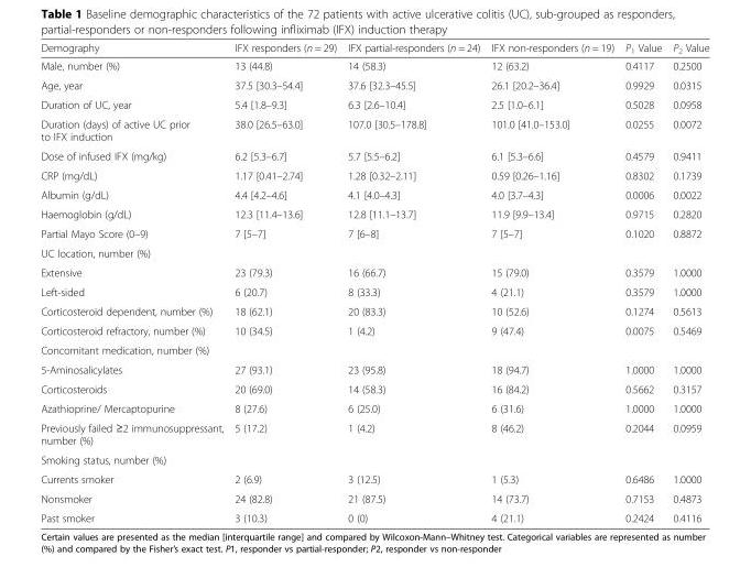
<table><thead><tr><td>Demography</td><td>IFX responders (n = 29)</td><td>IFX partial-responders (n = 24)</td><td>IFX non-responders (n = 19)</td><td>P<sub>1</sub> Value</td><td>P<sub>2</sub> Value</td></tr></thead><tbody><tr><td>Male, number (%)</td><td>13 (44.8)</td><td>14 (58.3)</td><td>12 (63.2)</td><td>0.4117</td><td>0.2500</td></tr><tr><td>Age, year</td><td>37.5 [30.3–54.4]</td><td>37.6 [32.3–45.5]</td><td>26.1 [20.2–36.4]</td><td>0.9929</td><td>0.0315</td></tr><tr><td>Duration of UC, year</td><td>5.4 [1.8–9.3]</td><td>6.3 [2.6–10.4]</td><td>2.5 [1.0–6.1]</td><td>0.5028</td><td>0.0958</td></tr><tr><td>Duration (days) of active UC prior to IFX induction</td><td>38.0 [26.5–63.0]</td><td>107.0 [30.5–178.8]</td><td>101.0 [41.0–153.0]</td><td>0.0255</td><td>0.0072</td></tr><tr><td>Dose of infused IFX (mg/kg)</td><td>6.2 [5.3–6.7]</td><td>5.7 [5.5–6.2]</td><td>6.1 [5.3–6.6]</td><td>0.4579</td><td>0.9411</td></tr><tr><td>CRP (mg/dL)</td><td>1.17 [0.41–2.74]</td><td>1.28 [0.32–2.11]</td><td>0.59 [0.26–1.16]</td><td>0.8302</td><td>0.1739</td></tr><tr><td>Albumin (g/dL)</td><td>4.4 [4.2–4.6]</td><td>4.1 [4.0–4.3]</td><td>4.0 [3.7–4.3]</td><td>0.0006</td><td>0.0022</td></tr><tr><td>Haemoglobin (g/dL)</td><td>12.3 [11.4–13.6]</td><td>12.8 [11.1–13.7]</td><td>11.9 [9.9–13.4]</td><td>0.9715</td><td>0.2820</td></tr><tr><td>Partial Mayo Score (0–9)</td><td>7 [5–7]</td><td>7 [6–8]</td><td>7 [5–7]</td><td>0.1020</td><td>0.8872</td></tr><tr><td colspan="6">UC location, number (%)</td></tr><tr><td>Extensive</td><td>23 (79.3)</td><td>16 (66.7)</td><td>15 (79.0)</td><td>0.3579</td><td>1.0000</td></tr><tr><td>Left-sided</td><td>6 (20.7)</td><td>8 (33.3)</td><td>4 (21.1)</td><td>0.3579</td><td>1.0000</td></tr><tr><td>Corticosteroid dependent, number (%)</td><td>18 (62.1)</td><td>20 (83.3)</td><td>10 (52.6)</td><td>0.1274</td><td>0.5613</td></tr><tr><td>Corticosteroid refractory, number (%)</td><td>10 (34.5)</td><td>1 (4.2)</td><td>9 (47.4)</td><td>0.0075</td><td>0.5469</td></tr><tr><td colspan="6">Concomitant medication, number (%)</td></tr><tr><td>5-Aminosalicylates</td><td>27 (93.1)</td><td>23 (95.8)</td><td>18 (94.7)</td><td>1.0000</td><td>1.0000</td></tr><tr><td>Corticosteroids</td><td>20 (69.0)</td><td>14 (58.3)</td><td>16 (84.2)</td><td>0.5662</td><td>0.3157</td></tr><tr><td>Azathioprine/ Mercaptopurine</td><td>8 (27.6)</td><td>6 (25.0)</td><td>6 (31.6)</td><td>1.0000</td><td>1.0000</td></tr><tr><td>Previously failed ≥2 immunosuppressant, number (%)</td><td>5 (17.2)</td><td>1 (4.2)</td><td>8 (46.2)</td><td>0.2044</td><td>0.0959</td></tr><tr><td colspan="6">Smoking status, number (%)</td></tr><tr><td>Currents smoker</td><td>2 (6.9)</td><td>3 (12.5)</td><td>1 (5.3)</td><td>0.6486</td><td>1.0000</td></tr><tr><td>Nonsmoker</td><td>24 (82.8)</td><td>21 (87.5)</td><td>14 (73.7)</td><td>0.7153</td><td>0.4873</td></tr><tr><td>Past smoker</td><td>3 (10.3)</td><td>0 (0)</td><td>4 (21.1)</td><td>0.2424</td><td>0.4116</td></tr></tbody></table>